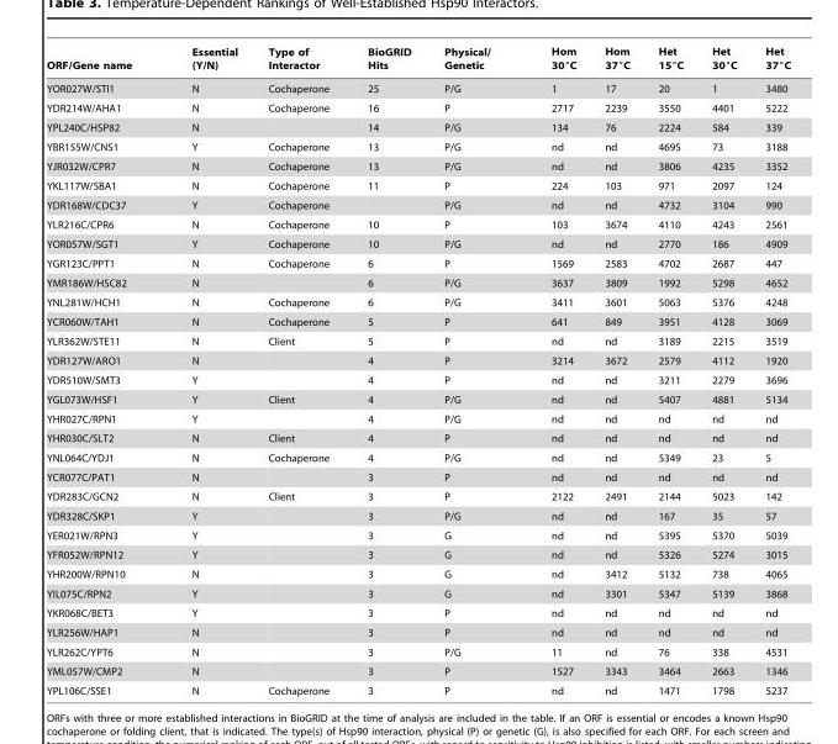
<table><thead><tr><td>ORF/Gene name</td><td>Essential (Y/N)</td><td>Type of Interactor</td><td>BioGRID Hits</td><td>Physical/ Genetic</td><td>Hom 30°C</td><td>Hom 37°C</td><td>Het 15°C</td><td>Het 30°C</td><td>Het 37°C</td></tr></thead><tbody><tr><td>YOR027W/STI1</td><td>N</td><td>Cochaperone</td><td>25</td><td>P/G</td><td>1</td><td>17</td><td>20</td><td>1</td><td>3480</td></tr><tr><td>YDR214W/AHA1</td><td>N</td><td>Cochaperone</td><td>16</td><td>P</td><td>2717</td><td>2239</td><td>3550</td><td>4401</td><td>5222</td></tr><tr><td>YPL240C/HSP82</td><td>N</td><td></td><td>14</td><td>P/G</td><td>134</td><td>76</td><td>2224</td><td>584</td><td>339</td></tr><tr><td>YBR155W/CNS1</td><td>Y</td><td>Cochaperone</td><td>13</td><td>P/G</td><td>nd</td><td>nd</td><td>4695</td><td>73</td><td>3188</td></tr><tr><td>YJR032W/CPR7</td><td>N</td><td>Cochaperone</td><td>13</td><td>P/G</td><td>nd</td><td>nd</td><td>3806</td><td>4235</td><td>3352</td></tr><tr><td>YKL117W/SBA1</td><td>N</td><td>Cochaperone</td><td>11</td><td>P</td><td>224</td><td>103</td><td>971</td><td>2097</td><td>124</td></tr><tr><td>YDR168W/CDC37</td><td>Y</td><td>Cochaperone</td><td></td><td>P/G</td><td>nd</td><td>nd</td><td>4732</td><td>3104</td><td>990</td></tr><tr><td>YLR216C/CPR6</td><td>N</td><td>Cochaperone</td><td>10</td><td>P</td><td>103</td><td>3674</td><td>4110</td><td>4243</td><td>2561</td></tr><tr><td>YOR057W/SGT1</td><td>Y</td><td>Cochaperone</td><td>10</td><td>P/G</td><td>nd</td><td>nd</td><td>2770</td><td>186</td><td>4909</td></tr><tr><td>YGR123C/PPT1</td><td>N</td><td>Cochaperone</td><td>6</td><td>P</td><td>1569</td><td>2583</td><td>4702</td><td>2687</td><td>447</td></tr><tr><td>YMR186W/HSC82</td><td>N</td><td></td><td>6</td><td>P/G</td><td>3637</td><td>3809</td><td>1992</td><td>5298</td><td>4652</td></tr><tr><td>YNL281W/HCH1</td><td>N</td><td>Cochaperone</td><td>6</td><td>P/G</td><td>3411</td><td>3601</td><td>5063</td><td>5376</td><td>4248</td></tr><tr><td>YCR060W/TAH1</td><td>N</td><td>Cochaperone</td><td>5</td><td>P</td><td>641</td><td>849</td><td>3951</td><td>4128</td><td>3069</td></tr><tr><td>YLR362W/STE11</td><td>N</td><td>Client</td><td>5</td><td>P</td><td>nd</td><td>nd</td><td>3189</td><td>2215</td><td>3519</td></tr><tr><td>YDR127W/ARO1</td><td>N</td><td></td><td>4</td><td>P</td><td>3214</td><td>3672</td><td>2579</td><td>4112</td><td>1920</td></tr><tr><td>YDR510W/SMT3</td><td>Y</td><td></td><td>4</td><td>P</td><td>nd</td><td>nd</td><td>3211</td><td>2279</td><td>3696</td></tr><tr><td>YGL073W/HSF1</td><td>Y</td><td>Client</td><td>4</td><td>P/G</td><td>nd</td><td>nd</td><td>5407</td><td>4881</td><td>5134</td></tr><tr><td>YHR027C/RPN1</td><td>Y</td><td></td><td>4</td><td>P/G</td><td>nd</td><td>nd</td><td>nd</td><td>nd</td><td>nd</td></tr><tr><td>YHR030C/SLT2</td><td>N</td><td>Client</td><td>4</td><td>P</td><td>nd</td><td>nd</td><td>nd</td><td>nd</td><td>nd</td></tr><tr><td>YNL064C/YDJ1</td><td>N</td><td>Cochaperone</td><td>4</td><td>P/G</td><td>nd</td><td>nd</td><td>5349</td><td>23</td><td>5</td></tr><tr><td>YCR077C/PAT1</td><td>N</td><td></td><td>3</td><td>P</td><td>nd</td><td>nd</td><td>nd</td><td>nd</td><td>nd</td></tr><tr><td>YDR283C/GCN2</td><td>N</td><td>Client</td><td>3</td><td>P</td><td>2122</td><td>2491</td><td>2144</td><td>5023</td><td>142</td></tr><tr><td>YDR328C/SKP1</td><td>Y</td><td></td><td>3</td><td>P/G</td><td>nd</td><td>nd</td><td>167</td><td>35</td><td>57</td></tr><tr><td>YER021W/RPN3</td><td>Y</td><td></td><td>3</td><td>G</td><td>nd</td><td>nd</td><td>5395</td><td>5370</td><td>5039</td></tr><tr><td>YFR052W/RPN12</td><td>Y</td><td></td><td>3</td><td>G</td><td>nd</td><td>nd</td><td>5326</td><td>5274</td><td>3015</td></tr><tr><td>YHR200W/RPN10</td><td>N</td><td></td><td>3</td><td>G</td><td>nd</td><td>3412</td><td>5132</td><td>738</td><td>4065</td></tr><tr><td>YIL075C/RPN2</td><td>Y</td><td></td><td>3</td><td>G</td><td>nd</td><td>3301</td><td>5347</td><td>5139</td><td>3868</td></tr><tr><td>YKR068C/BET3</td><td>Y</td><td></td><td>3</td><td>P</td><td>nd</td><td>nd</td><td>nd</td><td>nd</td><td>nd</td></tr><tr><td>YLR256W/HAP1</td><td>N</td><td></td><td>3</td><td>P</td><td>nd</td><td>nd</td><td>nd</td><td>nd</td><td>nd</td></tr><tr><td>YLR262C/YPT6</td><td>N</td><td></td><td>3</td><td>P/G</td><td>11</td><td>nd</td><td>76</td><td>338</td><td>4531</td></tr><tr><td>YML057W/CMP2</td><td>N</td><td></td><td>3</td><td>P</td><td>1527</td><td>3343</td><td>3464</td><td>2663</td><td>1346</td></tr><tr><td>YPL106C/SSE1</td><td>N</td><td>Cochaperone</td><td>3</td><td>P</td><td>nd</td><td>nd</td><td>1471</td><td>1798</td><td>5237</td></tr></tbody></table>